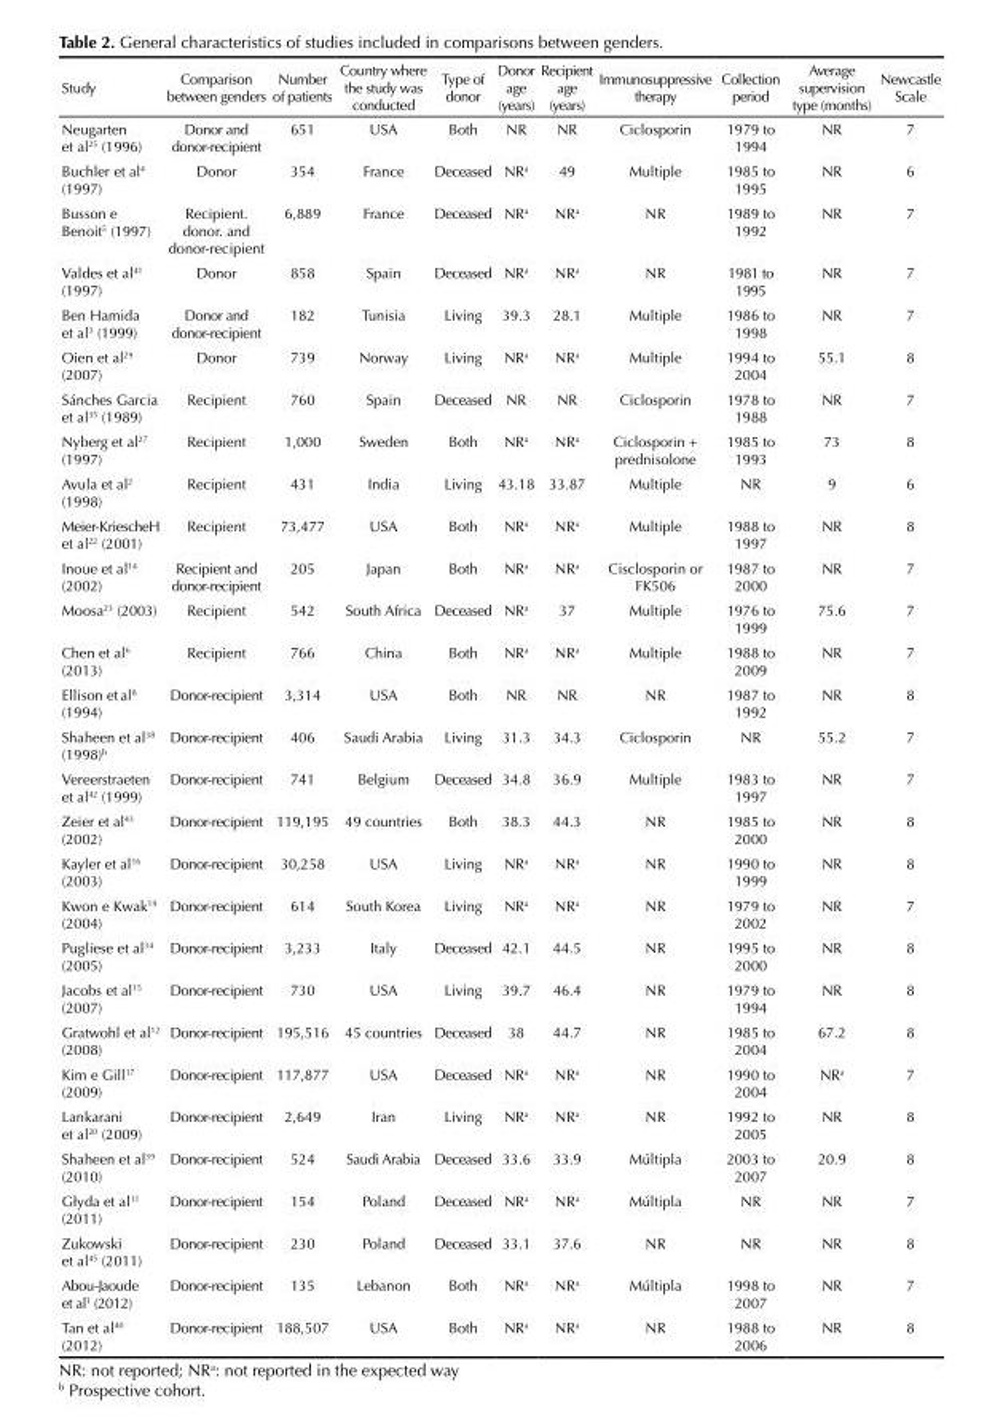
<table><thead><tr><td>Study</td><td>Comparison between genders</td><td>Number of patients</td><td>Country where the study was conducted</td><td>Type of donor</td><td>Donor age (years)</td><td>Recipient age (years)</td><td>Immunosuppressive therapy</td><td>Collection period</td><td>Average supervision type (months)</td><td>Newcastle Scale</td></tr></thead><tbody><tr><td>Neugarten et al<sup>25</sup> (1996)</td><td>Donor and donor-recipient</td><td>651</td><td>USA</td><td>Both</td><td>NR</td><td>NR</td><td>Ciclosporin</td><td>1979 to 1994</td><td>NR</td><td>7</td></tr><tr><td>Buchler et al<sup>4</sup> (1997)</td><td>Donor</td><td>354</td><td>France</td><td>Deceased</td><td>NR<sup>a</sup></td><td>49</td><td>Multiple</td><td>1985 to 1995</td><td>NR</td><td>6</td></tr><tr><td>Busson e Benoit<sup>5</sup> (1997)</td><td>Recipient. donor. and donor-recipient</td><td>6,889</td><td>France</td><td>Deceased</td><td>NR<sup>a</sup></td><td>NR<sup>a</sup></td><td>NR</td><td>1989 to 1992</td><td>NR</td><td>7</td></tr><tr><td>Valdes et al<sup>41</sup> (1997)</td><td>Donor</td><td>858</td><td>Spain</td><td>Deceased</td><td>NR<sup>a</sup></td><td>NR<sup>a</sup></td><td>NR</td><td>1981 to 1995</td><td>NR</td><td>7</td></tr><tr><td>Ben Hamida et al<sup>3</sup> (1999)</td><td>Donor and donor-recipient</td><td>182</td><td>Tunisia</td><td>Living</td><td>39.3</td><td>28.1</td><td>Multiple</td><td>1986 to 1998</td><td>NR</td><td>7</td></tr><tr><td>Oien et al<sup>29</sup> (2007)</td><td>Donor</td><td>739</td><td>Norway</td><td>Living</td><td>NR<sup>a</sup></td><td>NR<sup>a</sup></td><td>Multiple</td><td>1994 to 2004</td><td>55.1</td><td>8</td></tr><tr><td>Sánches Garcia et al<sup>35</sup> (1989)</td><td>Recipient</td><td>760</td><td>Spain</td><td>Deceased</td><td>NR</td><td>NR</td><td>Ciclosporin</td><td>1978 to 1988</td><td>NR</td><td>7</td></tr><tr><td>Nyberg et al<sup>27</sup> (1997)</td><td>Recipient</td><td>1,000</td><td>Sweden</td><td>Both</td><td>NR<sup>a</sup></td><td>NR<sup>a</sup></td><td>Ciclosporin + prednisolone</td><td>1985 to 1993</td><td>73</td><td>8</td></tr><tr><td>Avula et al<sup>2</sup> (1998)</td><td>Recipient</td><td>431</td><td>India</td><td>Living</td><td>43.18</td><td>33.87</td><td>Multiple</td><td>NR</td><td>9</td><td>6</td></tr><tr><td>Meier-KriescheH et al<sup>22</sup> (2001)</td><td>Recipient</td><td>73,477</td><td>USA</td><td>Both</td><td>NR<sup>a</sup></td><td>NR<sup>a</sup></td><td>Multiple</td><td>1988 to 1997</td><td>NR</td><td>8</td></tr><tr><td>Inoue et al<sup>14</sup> (2002)</td><td>Recipient and donor-recipient</td><td>205</td><td>Japan</td><td>Both</td><td>NR<sup>a</sup></td><td>NR<sup>a</sup></td><td>Cisclosporin or FK506</td><td>1987 to 2000</td><td>NR</td><td>7</td></tr><tr><td>Moosa<sup>23</sup> (2003)</td><td>Recipient</td><td>542</td><td>South Africa</td><td>Deceased</td><td>NR<sup>a</sup></td><td>37</td><td>Multiple</td><td>1976 to 1999</td><td>75.6</td><td>7</td></tr><tr><td>Chen et al<sup>6</sup> (2013)</td><td>Recipient</td><td>766</td><td>China</td><td>Both</td><td>NR<sup>a</sup></td><td>NR<sup>a</sup></td><td>Multiple</td><td>1988 to 2009</td><td>NR</td><td>7</td></tr><tr><td>Ellison et al<sup>8</sup> (1994)</td><td>Donor-recipient</td><td>3,314</td><td>USA</td><td>Both</td><td>NR</td><td>NR</td><td>NR</td><td>1987 to 1992</td><td>NR</td><td>8</td></tr><tr><td>Shaheen et al<sup>38</sup> (1998)<sup>b</sup></td><td>Donor-recipient</td><td>406</td><td>Saudi Arabia</td><td>Living</td><td>31.3</td><td>34.3</td><td>Ciclosporin</td><td>NR</td><td>55.2</td><td>7</td></tr><tr><td>Vereerstraeten et al<sup>42</sup> (1999)</td><td>Donor-recipient</td><td>741</td><td>Belgium</td><td>Deceased</td><td>34.8</td><td>36.9</td><td>Multiple</td><td>1983 to 1997</td><td>NR</td><td>7</td></tr><tr><td>Zeier et al<sup>43</sup> (2002)</td><td>Donor-recipient</td><td>119,195</td><td>49 countries</td><td>Both</td><td>38.3</td><td>44.3</td><td>NR</td><td>1985 to 2000</td><td>NR</td><td>8</td></tr><tr><td>Kayler et al<sup>16</sup> (2003)</td><td>Donor-recipient</td><td>30,258</td><td>USA</td><td>Living</td><td>NR<sup>a</sup></td><td>NR<sup>a</sup></td><td>NR</td><td>1990 to 1999</td><td>NR</td><td>8</td></tr><tr><td>Kwon e Kwak<sup>19</sup> (2004)</td><td>Donor-recipient</td><td>614</td><td>South Korea</td><td>Living</td><td>NR<sup>a</sup></td><td>NR<sup>a</sup></td><td>NR</td><td>1979 to 2002</td><td>NR</td><td>7</td></tr><tr><td>Pugliese et al<sup>34</sup> (2005)</td><td>Donor-recipient</td><td>3,233</td><td>Italy</td><td>Deceased</td><td>42.1</td><td>44.5</td><td>NR</td><td>1995 to 2000</td><td>NR</td><td>8</td></tr><tr><td>Jacobs et al<sup>15</sup> (2007)</td><td>Donor-recipient</td><td>730</td><td>USA</td><td>Living</td><td>39.7</td><td>46.4</td><td>NR</td><td>1979 to 1994</td><td>NR</td><td>8</td></tr><tr><td>Gratwohl et al<sup>12</sup> (2008)</td><td>Donor-recipient</td><td>195,516</td><td>45 countries</td><td>Deceased</td><td>38</td><td>44.7</td><td>NR</td><td>1985 to 2004</td><td>67.2</td><td>8</td></tr><tr><td>Kim e Gill<sup>17</sup> (2009)</td><td>Donor-recipient</td><td>117,877</td><td>USA</td><td>Deceased</td><td>NR<sup>a</sup></td><td>NR<sup>a</sup></td><td>NR</td><td>1990 to 2004</td><td>NR<sup>a</sup></td><td>7</td></tr><tr><td>Lankarani et al<sup>20</sup> (2009)</td><td>Donor-recipient</td><td>2,649</td><td>Iran</td><td>Living</td><td>NR<sup>a</sup></td><td>NR<sup>a</sup></td><td>NR</td><td>1992 to 2005</td><td>NR</td><td>8</td></tr><tr><td>Shaheen et al<sup>39</sup> (2010)</td><td>Donor-recipient</td><td>524</td><td>Saudi Arabia</td><td>Deceased</td><td>33.6</td><td>33.9</td><td>Múltipla</td><td>2003 to 2007</td><td>20.9</td><td>8</td></tr><tr><td>Głyda et al<sup>11</sup> (2011)</td><td>Donor-recipient</td><td>154</td><td>Poland</td><td>Deceased</td><td>NR<sup>a</sup></td><td>NR<sup>a</sup></td><td>Múltipla</td><td>NR</td><td>NR</td><td>7</td></tr><tr><td>Zukowski et al<sup>45</sup> (2011)</td><td>Donor-recipient</td><td>230</td><td>Poland</td><td>Deceased</td><td>33.1</td><td>37.6</td><td>NR</td><td>NR</td><td>NR</td><td>8</td></tr><tr><td>Abou-Jaoude et al<sup>1</sup> (2012)</td><td>Donor-recipient</td><td>135</td><td>Lebanon</td><td>Both</td><td>NR<sup>a</sup></td><td>NR<sup>a</sup></td><td>Múltipla</td><td>1998 to 2007</td><td>NR</td><td>7</td></tr><tr><td>Tan et al<sup>40</sup> (2012)</td><td>Donor-recipient</td><td>188,507</td><td>USA</td><td>Both</td><td>NR<sup>a</sup></td><td>NR<sup>a</sup></td><td>NR</td><td>1988 to 2006</td><td>NR</td><td>8</td></tr></tbody></table>